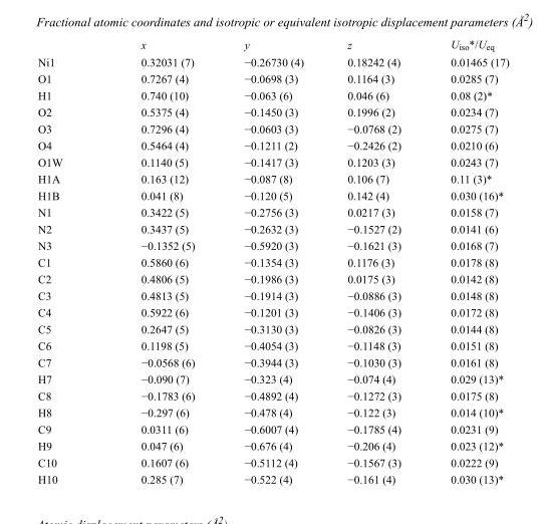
<table><thead><tr><td></td><td>x</td><td>y</td><td>z</td><td>U<sub>iso</sub>*/U<sub>eq</sub></td></tr></thead><tbody><tr><td>Ni1</td><td>0.32031 (7)</td><td>−0.26730 (4)</td><td>0.18242 (4)</td><td>0.01465 (17)</td></tr><tr><td>O1</td><td>0.7267 (4)</td><td>−0.0698 (3)</td><td>0.1164 (3)</td><td>0.0285 (7)</td></tr><tr><td>H1</td><td>0.740 (10)</td><td>−0.063 (6)</td><td>0.046 (6)</td><td>0.08 (2)*</td></tr><tr><td>O2</td><td>0.5375 (4)</td><td>−0.1450 (3)</td><td>0.1996 (2)</td><td>0.0234 (7)</td></tr><tr><td>O3</td><td>0.7296 (4)</td><td>−0.0603 (3)</td><td>−0.0768 (2)</td><td>0.0275 (7)</td></tr><tr><td>O4</td><td>0.5464 (4)</td><td>−0.1211 (2)</td><td>−0.2426 (2)</td><td>0.0210 (6)</td></tr><tr><td>O1W</td><td>0.1140 (5)</td><td>−0.1417 (3)</td><td>0.1203 (3)</td><td>0.0243 (7)</td></tr><tr><td>H1A</td><td>0.163 (12)</td><td>−0.087 (8)</td><td>0.106 (7)</td><td>0.11 (3)*</td></tr><tr><td>H1B</td><td>0.041 (8)</td><td>−0.120 (5)</td><td>0.142 (4)</td><td>0.030 (16)*</td></tr><tr><td>N1</td><td>0.3422 (5)</td><td>−0.2756 (3)</td><td>0.0217 (3)</td><td>0.0158 (7)</td></tr><tr><td>N2</td><td>0.3437 (5)</td><td>−0.2632 (3)</td><td>−0.1527 (2)</td><td>0.0141 (6)</td></tr><tr><td>N3</td><td>−0.1352 (5)</td><td>−0.5920 (3)</td><td>−0.1621 (3)</td><td>0.0168 (7)</td></tr><tr><td>C1</td><td>0.5860 (6)</td><td>−0.1354 (3)</td><td>0.1176 (3)</td><td>0.0178 (8)</td></tr><tr><td>C2</td><td>0.4806 (5)</td><td>−0.1986 (3)</td><td>0.0175 (3)</td><td>0.0142 (8)</td></tr><tr><td>C3</td><td>0.4813 (5)</td><td>−0.1914 (3)</td><td>−0.0886 (3)</td><td>0.0148 (8)</td></tr><tr><td>C4</td><td>0.5922 (6)</td><td>−0.1201 (3)</td><td>−0.1406 (3)</td><td>0.0172 (8)</td></tr><tr><td>C5</td><td>0.2647 (5)</td><td>−0.3130 (3)</td><td>−0.0826 (3)</td><td>0.0144 (8)</td></tr><tr><td>C6</td><td>0.1198 (5)</td><td>−0.4054 (3)</td><td>−0.1148 (3)</td><td>0.0151 (8)</td></tr><tr><td>C7</td><td>−0.0568 (6)</td><td>−0.3944 (3)</td><td>−0.1030 (3)</td><td>0.0161 (8)</td></tr><tr><td>H7</td><td>−0.090 (7)</td><td>−0.323 (4)</td><td>−0.074 (4)</td><td>0.029 (13)*</td></tr><tr><td>C8</td><td>−0.1783 (6)</td><td>−0.4892 (4)</td><td>−0.1272 (3)</td><td>0.0175 (8)</td></tr><tr><td>H8</td><td>−0.297 (6)</td><td>−0.478 (4)</td><td>−0.122 (3)</td><td>0.014 (10)*</td></tr><tr><td>C9</td><td>0.0311 (6)</td><td>−0.6007 (4)</td><td>−0.1785 (4)</td><td>0.0231 (9)</td></tr><tr><td>H9</td><td>0.047 (6)</td><td>−0.676 (4)</td><td>−0.206 (4)</td><td>0.023 (12)*</td></tr><tr><td>C10</td><td>0.1607 (6)</td><td>−0.5112 (4)</td><td>−0.1567 (3)</td><td>0.0222 (9)</td></tr><tr><td>H10</td><td>0.285 (7)</td><td>−0.522 (4)</td><td>−0.161 (4)</td><td>0.030 (13)*</td></tr></tbody></table>